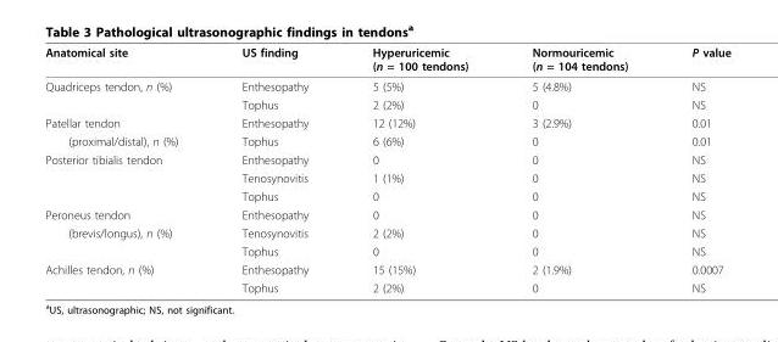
<table><thead><tr><td>Anatomical site</td><td>US finding</td><td>Hyperuricemic (n = 100 tendons)</td><td>Normouricemic (n = 104 tendons)</td><td>P value</td></tr></thead><tbody><tr><td rowspan="2">Quadriceps tendon, n (%)</td><td>Enthesopathy</td><td>5 (5%)</td><td>5 (4.8%)</td><td>NS</td></tr><tr><td>Tophus</td><td>2 (2%)</td><td>0</td><td>NS</td></tr><tr><td>Patellar tendon</td><td>Enthesopathy</td><td>12 (12%)</td><td>3 (2.9%)</td><td>0.01</td></tr><tr><td>(proximal/distal), n (%)</td><td>Tophus</td><td>6 (6%)</td><td>0</td><td>0.01</td></tr><tr><td rowspan="3">Posterior tibialis tendon</td><td>Enthesopathy</td><td>0</td><td>0</td><td>NS</td></tr><tr><td>Tenosynovitis</td><td>1 (1%)</td><td>0</td><td>NS</td></tr><tr><td>Tophus</td><td>0</td><td>0</td><td>NS</td></tr><tr><td>Peroneus tendon</td><td>Enthesopathy</td><td>0</td><td>0</td><td>NS</td></tr><tr><td rowspan="2">(brevis/longus), n (%)</td><td>Tenosynovitis</td><td>2 (2%)</td><td>0</td><td>NS</td></tr><tr><td>Tophus</td><td>0</td><td>0</td><td>NS</td></tr><tr><td rowspan="2">Achilles tendon, n (%)</td><td>Enthesopathy</td><td>15 (15%)</td><td>2 (1.9%)</td><td>0.0007</td></tr><tr><td>Tophus</td><td>2 (2%)</td><td>0</td><td>NS</td></tr></tbody></table>